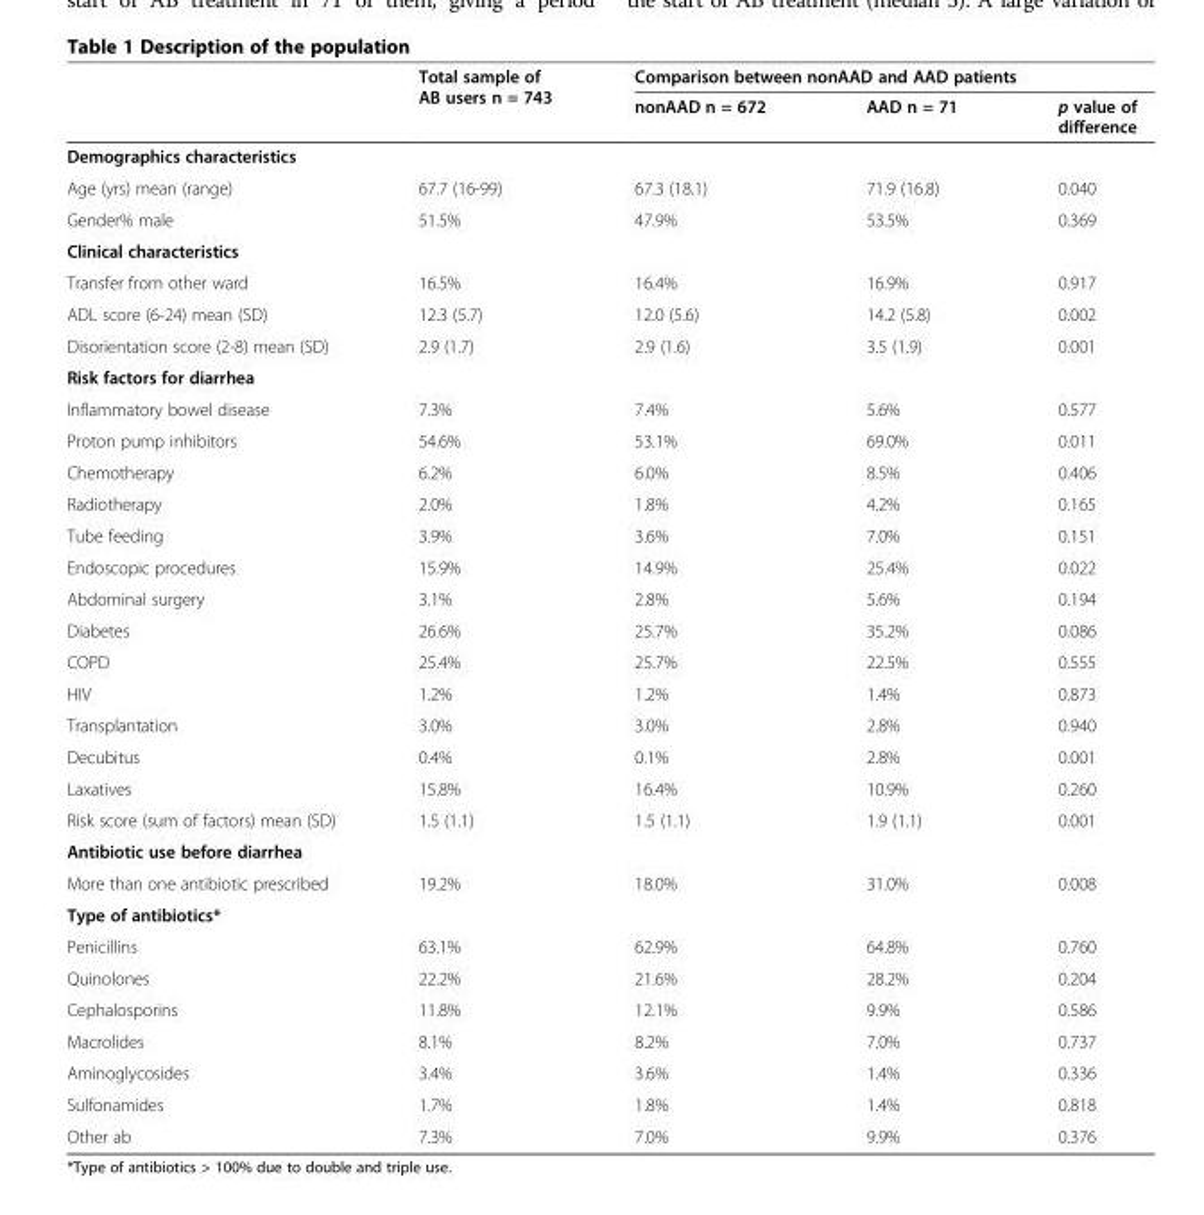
<table><thead><tr><td rowspan="2"></td><td rowspan="2">Total sample of AB users n = 743</td><td colspan="3">Comparison between nonAAD and AAD patients</td></tr><tr><td>nonAAD n = 672</td><td>AAD n = 71</td><td>p value of difference</td></tr></thead><tbody><tr><td colspan="5">Demographics characteristics</td></tr><tr><td>Age (yrs) mean (range)</td><td>67.7 (16-99)</td><td>67.3 (18.1)</td><td>71.9 (16.8)</td><td>0.040</td></tr><tr><td>Gender% male</td><td>51.5%</td><td>47.9%</td><td>53.5%</td><td>0.369</td></tr><tr><td colspan="5">Clinical characteristics</td></tr><tr><td>Transfer from other ward</td><td>16.5%</td><td>16.4%</td><td>16.9%</td><td>0.917</td></tr><tr><td>ADL score (6-24) mean (SD)</td><td>12.3 (5.7)</td><td>12.0 (5.6)</td><td>14.2 (5.8)</td><td>0.002</td></tr><tr><td>Disorientation score (2-8) mean (SD)</td><td>2.9 (1.7)</td><td>2.9 (1.6)</td><td>3.5 (1.9)</td><td>0.001</td></tr><tr><td colspan="5">Risk factors for diarrhea</td></tr><tr><td>Inflammatory bowel disease</td><td>7.3%</td><td>7.4%</td><td>5.6%</td><td>0.577</td></tr><tr><td>Proton pump inhibitors</td><td>54.6%</td><td>53.1%</td><td>69.0%</td><td>0.011</td></tr><tr><td>Chemotherapy</td><td>6.2%</td><td>6.0%</td><td>8.5%</td><td>0.406</td></tr><tr><td>Radiotherapy</td><td>2.0%</td><td>1.8%</td><td>4.2%</td><td>0.165</td></tr><tr><td>Tube feeding</td><td>3.9%</td><td>3.6%</td><td>7.0%</td><td>0.151</td></tr><tr><td>Endoscopic procedures</td><td>15.9%</td><td>14.9%</td><td>25.4%</td><td>0.022</td></tr><tr><td>Abdominal surgery</td><td>3.1%</td><td>2.8%</td><td>5.6%</td><td>0.194</td></tr><tr><td>Diabetes</td><td>26.6%</td><td>25.7%</td><td>35.2%</td><td>0.086</td></tr><tr><td>COPD</td><td>25.4%</td><td>25.7%</td><td>22.5%</td><td>0.555</td></tr><tr><td>HIV</td><td>1.2%</td><td>1.2%</td><td>1.4%</td><td>0.873</td></tr><tr><td>Transplantation</td><td>3.0%</td><td>3.0%</td><td>2.8%</td><td>0.940</td></tr><tr><td>Decubitus</td><td>0.4%</td><td>0.1%</td><td>2.8%</td><td>0.001</td></tr><tr><td>Laxatives</td><td>15.8%</td><td>16.4%</td><td>10.9%</td><td>0.260</td></tr><tr><td>Risk score (sum of factors) mean (SD)</td><td>1.5 (1.1)</td><td>1.5 (1.1)</td><td>1.9 (1.1)</td><td>0.001</td></tr><tr><td colspan="5">Antibiotic use before diarrhea</td></tr><tr><td>More than one antibiotic prescribed</td><td>19.2%</td><td>18.0%</td><td>31.0%</td><td>0.008</td></tr><tr><td colspan="5">Type of antibiotics*</td></tr><tr><td>Penicillins</td><td>63.1%</td><td>62.9%</td><td>64.8%</td><td>0.760</td></tr><tr><td>Quinolones</td><td>22.2%</td><td>21.6%</td><td>28.2%</td><td>0.204</td></tr><tr><td>Cephalosporins</td><td>11.8%</td><td>12.1%</td><td>9.9%</td><td>0.586</td></tr><tr><td>Macrolides</td><td>8.1%</td><td>8.2%</td><td>7.0%</td><td>0.737</td></tr><tr><td>Aminoglycosides</td><td>3.4%</td><td>3.6%</td><td>1.4%</td><td>0.336</td></tr><tr><td>Sulfonamides</td><td>1.7%</td><td>1.8%</td><td>1.4%</td><td>0.818</td></tr><tr><td>Other ab</td><td>7.3%</td><td>7.0%</td><td>9.9%</td><td>0.376</td></tr></tbody></table>